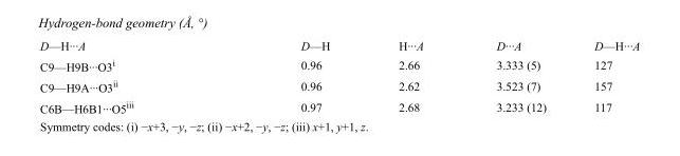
<table><tbody><tr><td>D—H···A</td><td>D—H</td><td>H···A</td><td>D···A</td><td>D—H···A</td></tr><tr><td>C9—H9B···O3<sup>i</sup></td><td>0.96</td><td>2.66</td><td>3.333 (5)</td><td>127</td></tr><tr><td>C9—H9A···O3<sup>ii</sup></td><td>0.96</td><td>2.62</td><td>3.523 (7)</td><td>157</td></tr><tr><td>C6B—H6B1···O5<sup>iii</sup></td><td>0.97</td><td>2.68</td><td>3.233 (12)</td><td>117</td></tr></tbody></table>